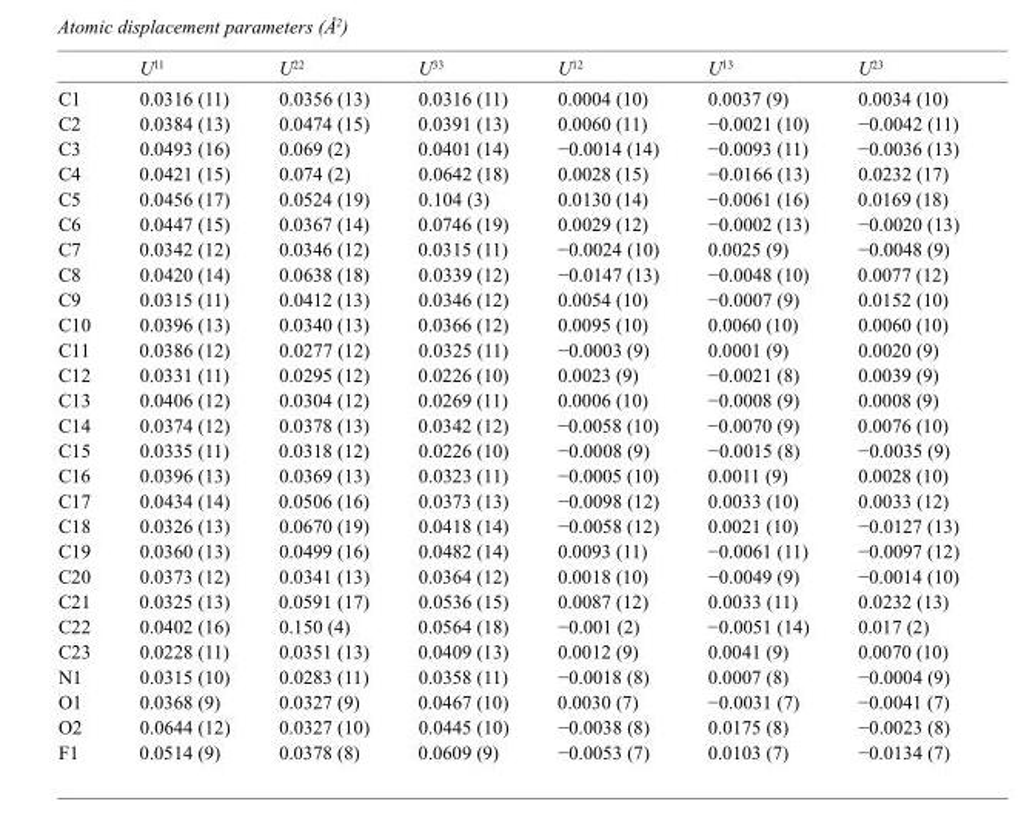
<table><thead><tr><td></td><td>U<sup>11</sup></td><td>U<sup>22</sup></td><td>U<sup>33</sup></td><td>U<sup>12</sup></td><td>U<sup>13</sup></td><td>U<sup>23</sup></td></tr></thead><tbody><tr><td>C1</td><td>0.0316 (11)</td><td>0.0356 (13)</td><td>0.0316 (11)</td><td>0.0004 (10)</td><td>0.0037 (9)</td><td>0.0034 (10)</td></tr><tr><td>C2</td><td>0.0384 (13)</td><td>0.0474 (15)</td><td>0.0391 (13)</td><td>0.0060 (11)</td><td>−0.0021 (10)</td><td>−0.0042 (11)</td></tr><tr><td>C3</td><td>0.0493 (16)</td><td>0.069 (2)</td><td>0.0401 (14)</td><td>−0.0014 (14)</td><td>−0.0093 (11)</td><td>−0.0036 (13)</td></tr><tr><td>C4</td><td>0.0421 (15)</td><td>0.074 (2)</td><td>0.0642 (18)</td><td>0.0028 (15)</td><td>−0.0166 (13)</td><td>0.0232 (17)</td></tr><tr><td>C5</td><td>0.0456 (17)</td><td>0.0524 (19)</td><td>0.104 (3)</td><td>0.0130 (14)</td><td>−0.0061 (16)</td><td>0.0169 (18)</td></tr><tr><td>C6</td><td>0.0447 (15)</td><td>0.0367 (14)</td><td>0.0746 (19)</td><td>0.0029 (12)</td><td>−0.0002 (13)</td><td>−0.0020 (13)</td></tr><tr><td>C7</td><td>0.0342 (12)</td><td>0.0346 (12)</td><td>0.0315 (11)</td><td>−0.0024 (10)</td><td>0.0025 (9)</td><td>−0.0048 (9)</td></tr><tr><td>C8</td><td>0.0420 (14)</td><td>0.0638 (18)</td><td>0.0339 (12)</td><td>−0.0147 (13)</td><td>−0.0048 (10)</td><td>0.0077 (12)</td></tr><tr><td>C9</td><td>0.0315 (11)</td><td>0.0412 (13)</td><td>0.0346 (12)</td><td>0.0054 (10)</td><td>−0.0007 (9)</td><td>0.0152 (10)</td></tr><tr><td>C10</td><td>0.0396 (13)</td><td>0.0340 (13)</td><td>0.0366 (12)</td><td>0.0095 (10)</td><td>0.0060 (10)</td><td>0.0060 (10)</td></tr><tr><td>C11</td><td>0.0386 (12)</td><td>0.0277 (12)</td><td>0.0325 (11)</td><td>−0.0003 (9)</td><td>0.0001 (9)</td><td>0.0020 (9)</td></tr><tr><td>C12</td><td>0.0331 (11)</td><td>0.0295 (12)</td><td>0.0226 (10)</td><td>0.0023 (9)</td><td>−0.0021 (8)</td><td>0.0039 (9)</td></tr><tr><td>C13</td><td>0.0406 (12)</td><td>0.0304 (12)</td><td>0.0269 (11)</td><td>0.0006 (10)</td><td>−0.0008 (9)</td><td>0.0008 (9)</td></tr><tr><td>C14</td><td>0.0374 (12)</td><td>0.0378 (13)</td><td>0.0342 (12)</td><td>−0.0058 (10)</td><td>−0.0070 (9)</td><td>0.0076 (10)</td></tr><tr><td>C15</td><td>0.0335 (11)</td><td>0.0318 (12)</td><td>0.0226 (10)</td><td>−0.0008 (9)</td><td>−0.0015 (8)</td><td>−0.0035 (9)</td></tr><tr><td>C16</td><td>0.0396 (13)</td><td>0.0369 (13)</td><td>0.0323 (11)</td><td>−0.0005 (10)</td><td>0.0011 (9)</td><td>0.0028 (10)</td></tr><tr><td>C17</td><td>0.0434 (14)</td><td>0.0506 (16)</td><td>0.0373 (13)</td><td>−0.0098 (12)</td><td>0.0033 (10)</td><td>0.0033 (12)</td></tr><tr><td>C18</td><td>0.0326 (13)</td><td>0.0670 (19)</td><td>0.0418 (14)</td><td>−0.0058 (12)</td><td>0.0021 (10)</td><td>−0.0127 (13)</td></tr><tr><td>C19</td><td>0.0360 (13)</td><td>0.0499 (16)</td><td>0.0482 (14)</td><td>0.0093 (11)</td><td>−0.0061 (11)</td><td>−0.0097 (12)</td></tr><tr><td>C20</td><td>0.0373 (12)</td><td>0.0341 (13)</td><td>0.0364 (12)</td><td>0.0018 (10)</td><td>−0.0049 (9)</td><td>−0.0014 (10)</td></tr><tr><td>C21</td><td>0.0325 (13)</td><td>0.0591 (17)</td><td>0.0536 (15)</td><td>0.0087 (12)</td><td>0.0033 (11)</td><td>0.0232 (13)</td></tr><tr><td>C22</td><td>0.0402 (16)</td><td>0.150 (4)</td><td>0.0564 (18)</td><td>−0.001 (2)</td><td>−0.0051 (14)</td><td>0.017 (2)</td></tr><tr><td>C23</td><td>0.0228 (11)</td><td>0.0351 (13)</td><td>0.0409 (13)</td><td>0.0012 (9)</td><td>0.0041 (9)</td><td>0.0070 (10)</td></tr><tr><td>N1</td><td>0.0315 (10)</td><td>0.0283 (11)</td><td>0.0358 (11)</td><td>−0.0018 (8)</td><td>0.0007 (8)</td><td>−0.0004 (9)</td></tr><tr><td>O1</td><td>0.0368 (9)</td><td>0.0327 (9)</td><td>0.0467 (10)</td><td>0.0030 (7)</td><td>−0.0031 (7)</td><td>−0.0041 (7)</td></tr><tr><td>O2</td><td>0.0644 (12)</td><td>0.0327 (10)</td><td>0.0445 (10)</td><td>−0.0038 (8)</td><td>0.0175 (8)</td><td>−0.0023 (8)</td></tr><tr><td>F1</td><td>0.0514 (9)</td><td>0.0378 (8)</td><td>0.0609 (9)</td><td>−0.0053 (7)</td><td>0.0103 (7)</td><td>−0.0134 (7)</td></tr></tbody></table>